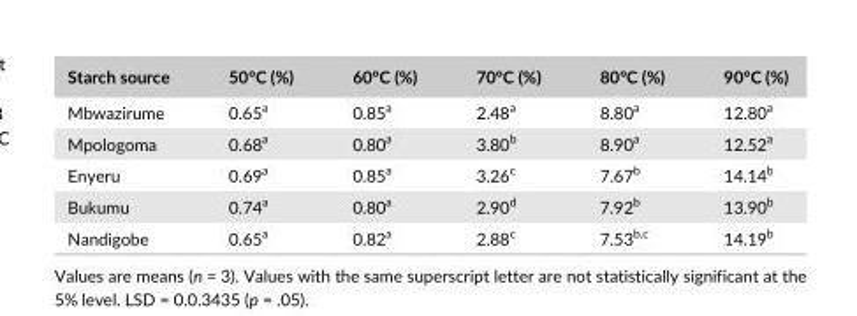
<table><thead><tr><td>Starch source</td><td>50°C (%)</td><td>60°C (%)</td><td>70°C (%)</td><td>80°C (%)</td><td>90°C (%)</td></tr></thead><tbody><tr><td>Mbwazirume</td><td>0.65<sup>a</sup></td><td>0.85<sup>a</sup></td><td>2.48<sup>a</sup></td><td>8.80<sup>a</sup></td><td>12.80<sup>a</sup></td></tr><tr><td>Mpologoma</td><td>0.68<sup>a</sup></td><td>0.80<sup>a</sup></td><td>3.80<sup>b</sup></td><td>8.90<sup>a</sup></td><td>12.52<sup>a</sup></td></tr><tr><td>Enyeru</td><td>0.69<sup>a</sup></td><td>0.85<sup>a</sup></td><td>3.26<sup>c</sup></td><td>7.67<sup>b</sup></td><td>14.14<sup>b</sup></td></tr><tr><td>Bukumu</td><td>0.74<sup>a</sup></td><td>0.80<sup>a</sup></td><td>2.90<sup>d</sup></td><td>7.92<sup>b</sup></td><td>13.90<sup>b</sup></td></tr><tr><td>Nandigobe</td><td>0.65<sup>a</sup></td><td>0.82<sup>a</sup></td><td>2.88<sup>c</sup></td><td>7.53<sup>b,c</sup></td><td>14.19<sup>b</sup></td></tr></tbody></table>